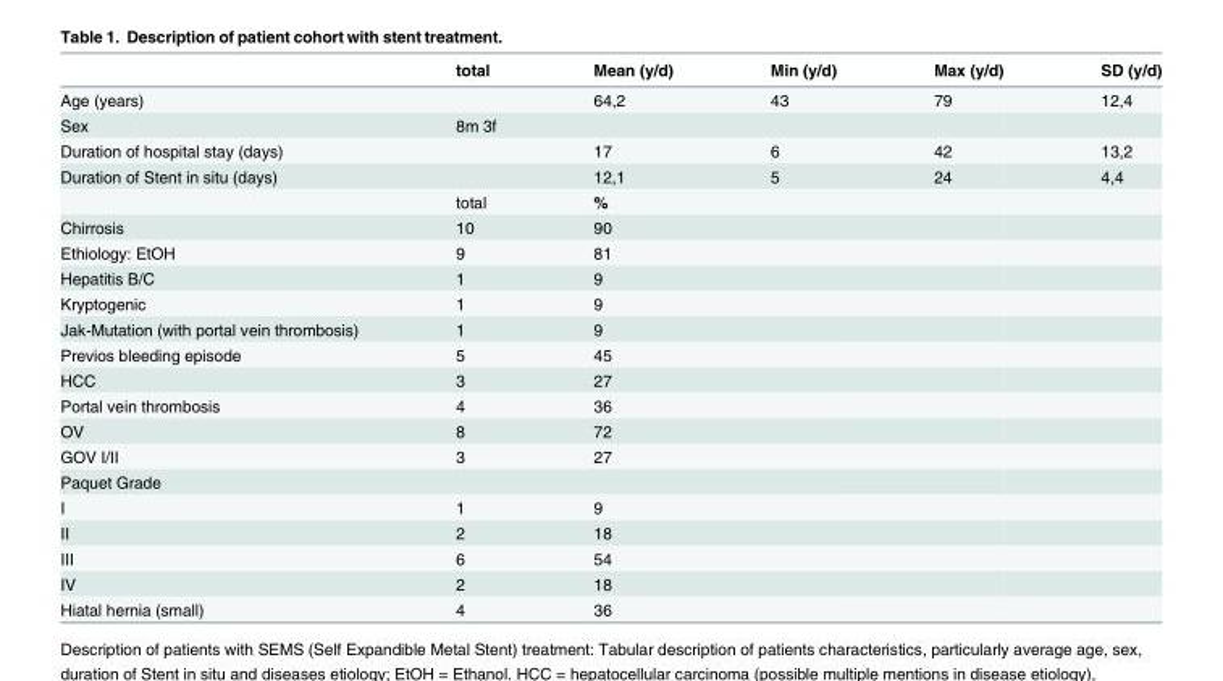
<table><thead><tr><td></td><td>total</td><td>Mean (y/d)</td><td>Min (y/d)</td><td>Max (y/d)</td><td>SD (y/d)</td></tr></thead><tbody><tr><td>Age (years)</td><td></td><td>64,2</td><td>43</td><td>79</td><td>12,4</td></tr><tr><td>Sex</td><td>8m 3f</td><td></td><td></td><td></td><td></td></tr><tr><td>Duration of hospital stay (days)</td><td></td><td>17</td><td>6</td><td>42</td><td>13,2</td></tr><tr><td rowspan="2">Duration of Stent in situ (days)</td><td></td><td>12,1</td><td>5</td><td>24</td><td>4,4</td></tr><tr><td>total</td><td>%</td><td></td><td></td><td></td></tr><tr><td>Chirrosis</td><td>10</td><td>90</td><td></td><td></td><td></td></tr><tr><td>Ethiology: EtOH</td><td>9</td><td>81</td><td></td><td></td><td></td></tr><tr><td>Hepatitis B/C</td><td>1</td><td>9</td><td></td><td></td><td></td></tr><tr><td>Kryptogenic</td><td>1</td><td>9</td><td></td><td></td><td></td></tr><tr><td>Jak-Mutation (with portal vein thrombosis)</td><td>1</td><td>9</td><td></td><td></td><td></td></tr><tr><td>Previos bleeding episode</td><td>5</td><td>45</td><td></td><td></td><td></td></tr><tr><td>HCC</td><td>3</td><td>27</td><td></td><td></td><td></td></tr><tr><td>Portal vein thrombosis</td><td>4</td><td>36</td><td></td><td></td><td></td></tr><tr><td>OV</td><td>8</td><td>72</td><td></td><td></td><td></td></tr><tr><td>GOV I/II</td><td>3</td><td>27</td><td></td><td></td><td></td></tr><tr><td colspan="6">Paquet Grade</td></tr><tr><td>I</td><td>1</td><td>9</td><td></td><td></td><td></td></tr><tr><td>II</td><td>2</td><td>18</td><td></td><td></td><td></td></tr><tr><td>III</td><td>6</td><td>54</td><td></td><td></td><td></td></tr><tr><td>IV</td><td>2</td><td>18</td><td></td><td></td><td></td></tr><tr><td>Hiatal hernia (small)</td><td>4</td><td>36</td><td></td><td></td><td></td></tr></tbody></table>